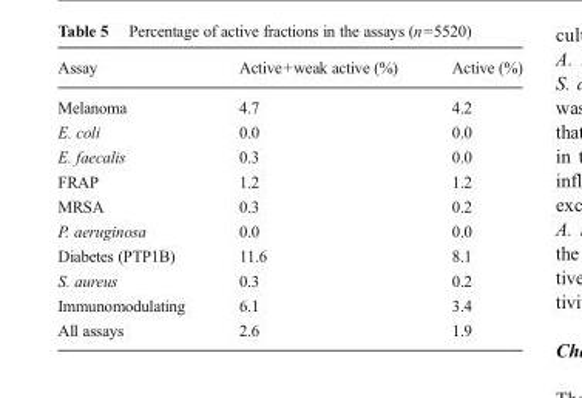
<table><thead><tr><td>Assay</td><td>Active+weak active (%)</td><td>Active (%)</td></tr></thead><tbody><tr><td>Melanoma</td><td>4.7</td><td>4.2</td></tr><tr><td>E. coli</td><td>0.0</td><td>0.0</td></tr><tr><td>E. faecalis</td><td>0.3</td><td>0.0</td></tr><tr><td>FRAP</td><td>1.2</td><td>1.2</td></tr><tr><td>MRSA</td><td>0.3</td><td>0.2</td></tr><tr><td>P. aeruginosa</td><td>0.0</td><td>0.0</td></tr><tr><td>Diabetes (PTP1B)</td><td>11.6</td><td>8.1</td></tr><tr><td>S. aureus</td><td>0.3</td><td>0.2</td></tr><tr><td>Immunomodulating</td><td>6.1</td><td>3.4</td></tr><tr><td>All assays</td><td>2.6</td><td>1.9</td></tr></tbody></table>